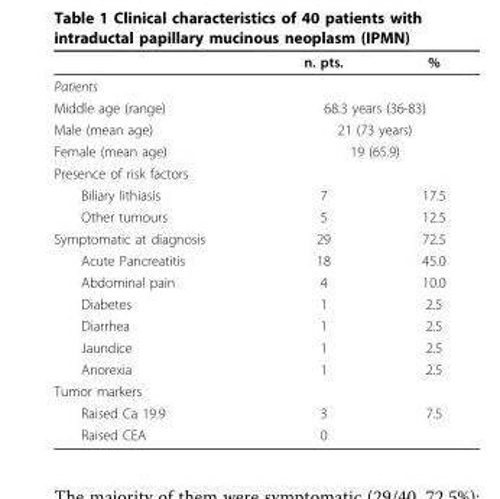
<table><thead><tr><td></td><td>n. pts.</td><td>%</td></tr></thead><tbody><tr><td colspan="3">Patients</td></tr><tr><td>Middle age (range)</td><td colspan="2">68.3 years (36-83)</td></tr><tr><td>Male (mean age)</td><td colspan="2">21 (73 years)</td></tr><tr><td>Female (mean age)</td><td colspan="2">19 (65.9)</td></tr><tr><td colspan="3">Presence of risk factors</td></tr><tr><td>Biliary lithiasis</td><td>7</td><td>17.5</td></tr><tr><td>Other tumours</td><td>5</td><td>12.5</td></tr><tr><td>Symptomatic at diagnosis</td><td>29</td><td>72.5</td></tr><tr><td>Acute Pancreatitis</td><td>18</td><td>45.0</td></tr><tr><td>Abdominal pain</td><td>4</td><td>10.0</td></tr><tr><td>Diabetes</td><td>1</td><td>2.5</td></tr><tr><td>Diarrhea</td><td>1</td><td>2.5</td></tr><tr><td>Jaundice</td><td>1</td><td>2.5</td></tr><tr><td>Anorexia</td><td>1</td><td>2.5</td></tr><tr><td colspan="3">Tumor markers</td></tr><tr><td>Raised Ca 19.9</td><td>3</td><td>7.5</td></tr><tr><td>Raised CEA</td><td>0</td><td></td></tr></tbody></table>